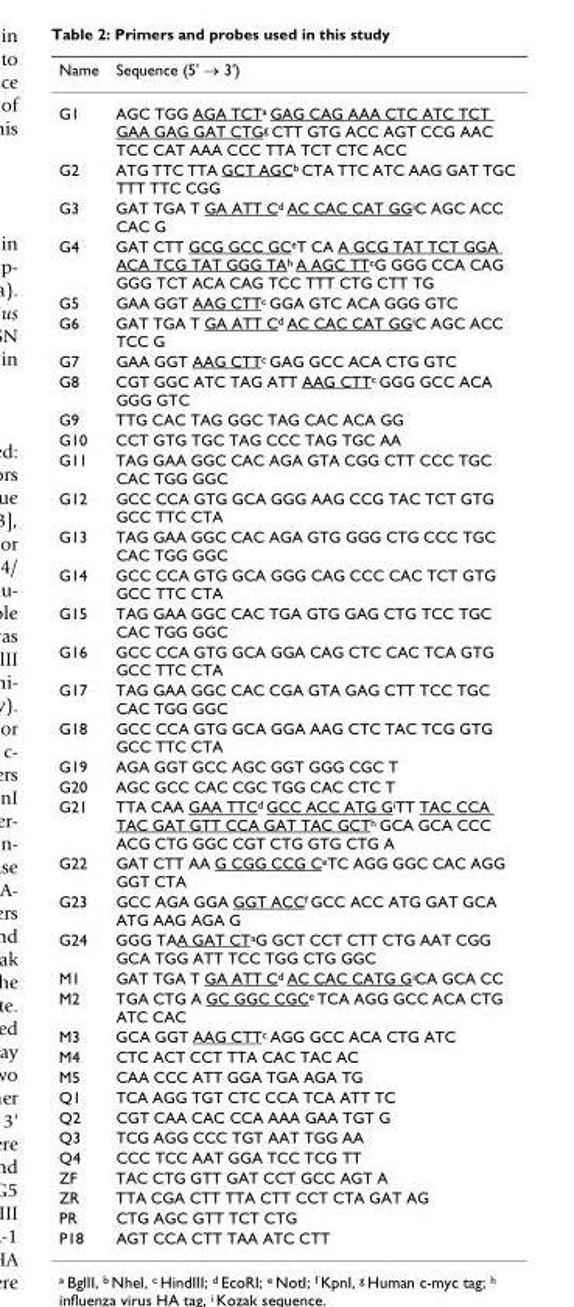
<table><thead><tr><td>Name</td><td>Sequence (5&#x27; → 3&#x27;)</td></tr></thead><tbody><tr><td>G1</td><td>AGC TGG AGA TCT<sup>a</sup> GAG CAG AAA CTC ATC TCT GAA GAG GAT CTG<sup>g</sup> CTT GTG ACC AGT CCG AAC TCC CAT AAA CCC TTA TCT CTC ACC</td></tr><tr><td>G2</td><td>ATG TTC TTA GCT AGC<sup>b</sup> CTA TTC ATC AAG GAT TGC TTT TTC CGG</td></tr><tr><td>G3</td><td>GAT TGA T GA ATT C<sup>d</sup> AC CAC CAT GG<sup>i</sup>C AGC ACC CAC G</td></tr><tr><td>G4</td><td>GAT CTT GCG GCC GC<sup>e</sup>T CA A GCG TAT TCT GGA ACA TCG TAT GGG TA<sup>h</sup> A AGC TT<sup>c</sup>G GGG CCA CAG GGG TCT ACA CAG TCC TTT CTG CTT TG</td></tr><tr><td>G5</td><td>GAA GGT AAG CTT<sup>c</sup> GGA GTC ACA GGG GTC</td></tr><tr><td>G6</td><td>GAT TGA T GA ATT C<sup>d</sup> AC CAC CAT GG<sup>i</sup>C AGC ACC TCC G</td></tr><tr><td>G7</td><td>GAA GGT AAG CTT<sup>c</sup> GAG GCC ACA CTG GTC</td></tr><tr><td>G8</td><td>CGT GGC ATC TAG ATT AAG CTT<sup>c</sup> GGG GCC ACA GGG GTC</td></tr><tr><td>G9</td><td>TTG CAC TAG GGC TAG CAC ACA GG</td></tr><tr><td>G10</td><td>CCT GTG TGC TAG CCC TAG TGC AA</td></tr><tr><td>G11</td><td>TAG GAA GGC CAC AGA GTA CGG CTT CCC TGC CAC TGG GGC</td></tr><tr><td>G12</td><td>GCC CCA GTG GCA GGG AAG CCG TAC TCT GTG GCC TTC CTA</td></tr><tr><td>G13</td><td>TAG GAA GGC CAC AGA GTG GGG CTG CCC TGC CAC TGG GGC</td></tr><tr><td>G14</td><td>GCC CCA GTG GCA GGG CAG CCC CAC TCT GTG GCC TTC CTA</td></tr><tr><td>G15</td><td>TAG GAA GGC CAC TGA GTG GAG CTG TCC TGC CAC TGG GGC</td></tr><tr><td>G16</td><td>GCC CCA GTG GCA GGA CAG CTC CAC TCA GTG GCC TTC CTA</td></tr><tr><td>G17</td><td>TAG GAA GGC CAC CGA GTA GAG CTT TCC TGC CAC TGG GGC</td></tr><tr><td>G18</td><td>GCC CCA GTG GCA GGA AAG CTC TAC TCG GTG GCC TTC CTA</td></tr><tr><td>G19</td><td>AGA GGT GCC AGC GGT GGG CGC T</td></tr><tr><td>G20</td><td>AGC GCC CAC CGC TGG CAC CTC T</td></tr><tr><td>G21</td><td>TTA CAA GAA TTC<sup>d</sup> GCC ACC ATG G<sup>i</sup>TT TAC CCA TAC GAT GTT CCA GAT TAC GCT<sup>h</sup> GCA GCA CCC ACG CTG GGC CGT CTG GTG CTG A</td></tr><tr><td>G22</td><td>GAT CTT AA G CGG CCG C<sup>e</sup>TC AGG GGC CAC AGG GGT CTA</td></tr><tr><td>G23</td><td>GCC AGA GGA GGT ACC<sup>f</sup> GCC ACC ATG GAT GCA ATG AAG AGA G</td></tr><tr><td>G24</td><td>GGG TAA GAT CT<sup>a</sup>G GCT CCT CTT CTG AAT CGG GCA TGG ATT TCC TGG CTG GGC</td></tr><tr><td>M1</td><td>GAT TGA T GA ATT C<sup>d</sup> AC CAC CATG G<sup>i</sup>CA GCA CC</td></tr><tr><td>M2</td><td>TGA CTG A GC GGC CGC<sup>e</sup> TCA AGG GCC ACA CTG ATC CAC</td></tr><tr><td>M3</td><td>GCA GGT AAG CTT<sup>c</sup> AGG GCC ACA CTG ATC</td></tr><tr><td>M4</td><td>CTC ACT CCT TTA CAC TAC AC</td></tr><tr><td>M5</td><td>CAA CCC ATT GGA TGA AGA TG</td></tr><tr><td>Q1</td><td>TCA AGG TGT CTC CCA TCA ATT TC</td></tr><tr><td>Q2</td><td>CGT CAA CAC CCA AAA GAA TGT G</td></tr><tr><td>Q3</td><td>TCG AGG CCC TGT AAT TGG AA</td></tr><tr><td>Q4</td><td>CCC TCC AAT GGA TCC TCG TT</td></tr><tr><td>ZF</td><td>TAC CTG GTT GAT CCT GCC AGT A</td></tr><tr><td>ZR</td><td>TTA CGA CTT TTA CTT CCT CTA GAT AG</td></tr><tr><td>PR</td><td>CTG AGC GTT TCT CTG</td></tr><tr><td>P18</td><td>AGT CCA CTT TAA ATC CTT</td></tr></tbody></table>